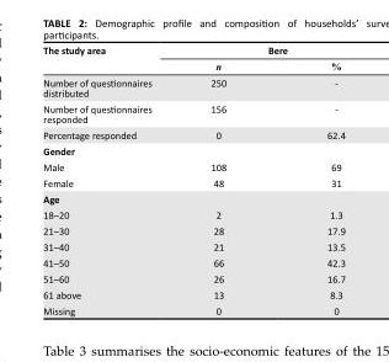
<table><thead><tr><td rowspan="2">The study area</td><td colspan="2">Bere</td></tr><tr><td>n</td><td>%</td></tr></thead><tbody><tr><td>Number of questionnaires distributed</td><td>250</td><td>-</td></tr><tr><td>Number of questionnaires responded</td><td>156</td><td>-</td></tr><tr><td>Percentage responded</td><td>0</td><td>62.4</td></tr><tr><td colspan="3">Gender</td></tr><tr><td>Male</td><td>108</td><td>69</td></tr><tr><td>Female</td><td>48</td><td>31</td></tr><tr><td colspan="3">Age</td></tr><tr><td>18–20</td><td>2</td><td>1.3</td></tr><tr><td>21–30</td><td>28</td><td>17.9</td></tr><tr><td>31–40</td><td>21</td><td>13.5</td></tr><tr><td>41–50</td><td>66</td><td>42.3</td></tr><tr><td>51–60</td><td>26</td><td>16.7</td></tr><tr><td>61 above</td><td>13</td><td>8.3</td></tr><tr><td>Missing</td><td>0</td><td>0</td></tr></tbody></table>